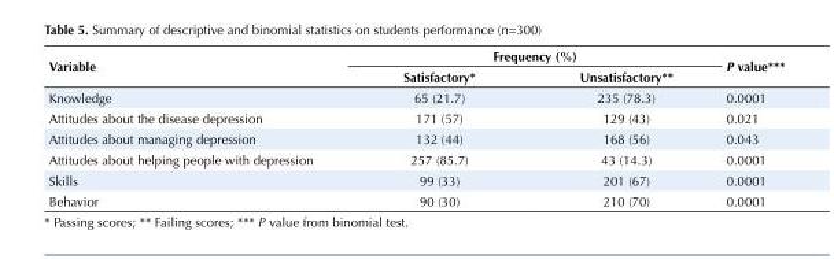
<table><tbody><tr><td rowspan="2">Variable</td><td colspan="2">Frequency (%)</td><td rowspan="2">P value***</td></tr><tr><td>Satisfactory*</td><td>Unsatisfactory**</td></tr><tr><td>Knowledge</td><td>65 (21.7)</td><td>235 (78.3)</td><td>0.0001</td></tr><tr><td>Attitudes about the disease depression</td><td>171 (57)</td><td>129 (43)</td><td>0.021</td></tr><tr><td>Attitudes about managing depression</td><td>132 (44)</td><td>168 (56)</td><td>0.043</td></tr><tr><td>Attitudes about helping people with depression</td><td>257 (85.7)</td><td>43 (14.3)</td><td>0.0001</td></tr><tr><td>Skills</td><td>99 (33)</td><td>201 (67)</td><td>0.0001</td></tr><tr><td>Behavior</td><td>90 (30)</td><td>210 (70)</td><td>0.0001</td></tr></tbody></table>